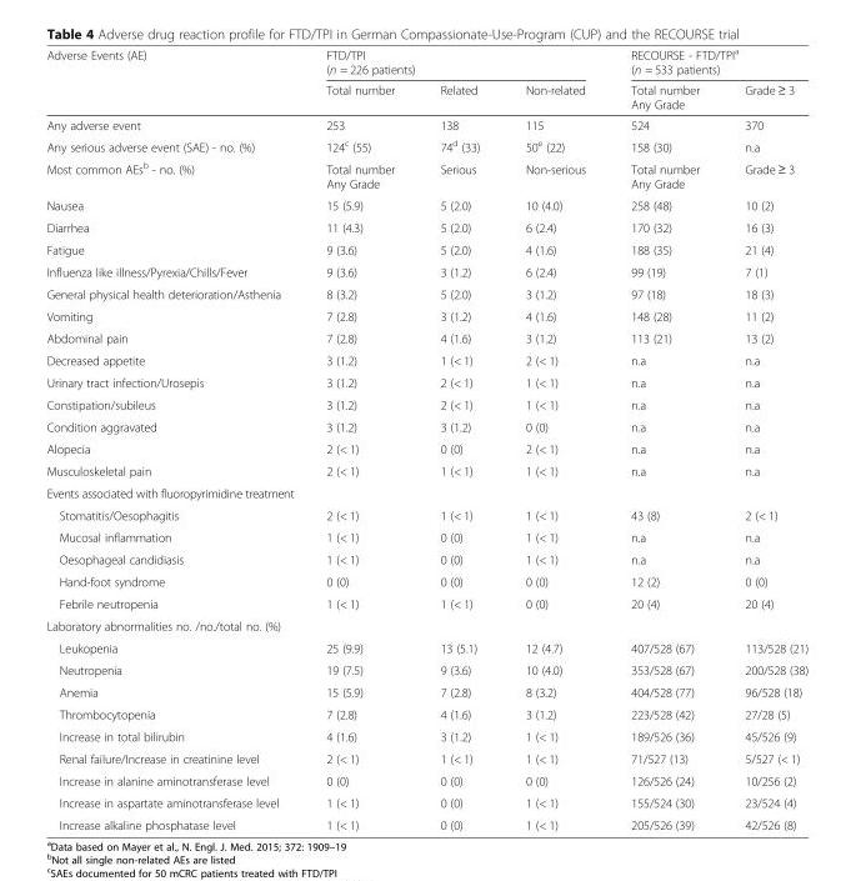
<table><thead><tr><td rowspan="2">Adverse Events (AE)</td><td colspan="3">FTD/TPI (n = 226 patients)</td><td colspan="2">RECOURSE - FTD/TPI<sup>a</sup> (n = 533 patients)</td></tr><tr><td>Total number</td><td>Related</td><td>Non-related</td><td>Total number Any Grade</td><td>Grade ≥ 3</td></tr></thead><tbody><tr><td>Any adverse event</td><td>253</td><td>138</td><td>115</td><td>524</td><td>370</td></tr><tr><td>Any serious adverse event (SAE) - no. (%)</td><td>124<sup>c</sup> (55)</td><td>74<sup>d</sup> (33)</td><td>50<sup>e</sup> (22)</td><td>158 (30)</td><td>n.a</td></tr><tr><td>Most common AEs<sup>b</sup> - no. (%)</td><td>Total number Any Grade</td><td>Serious</td><td>Non-serious</td><td>Total number Any Grade</td><td>Grade ≥ 3</td></tr><tr><td>Nausea</td><td>15 (5.9)</td><td>5 (2.0)</td><td>10 (4.0)</td><td>258 (48)</td><td>10 (2)</td></tr><tr><td>Diarrhea</td><td>11 (4.3)</td><td>5 (2.0)</td><td>6 (2.4)</td><td>170 (32)</td><td>16 (3)</td></tr><tr><td>Fatigue</td><td>9 (3.6)</td><td>5 (2.0)</td><td>4 (1.6)</td><td>188 (35)</td><td>21 (4)</td></tr><tr><td>Influenza like illness/Pyrexia/Chills/Fever</td><td>9 (3.6)</td><td>3 (1.2)</td><td>6 (2.4)</td><td>99 (19)</td><td>7 (1)</td></tr><tr><td>General physical health deterioration/Asthenia</td><td>8 (3.2)</td><td>5 (2.0)</td><td>3 (1.2)</td><td>97 (18)</td><td>18 (3)</td></tr><tr><td>Vomiting</td><td>7 (2.8)</td><td>3 (1.2)</td><td>4 (1.6)</td><td>148 (28)</td><td>11 (2)</td></tr><tr><td>Abdominal pain</td><td>7 (2.8)</td><td>4 (1.6)</td><td>3 (1.2)</td><td>113 (21)</td><td>13 (2)</td></tr><tr><td>Decreased appetite</td><td>3 (1.2)</td><td>1 (&lt; 1)</td><td>2 (&lt; 1)</td><td>n.a</td><td>n.a</td></tr><tr><td>Urinary tract infection/Urosepis</td><td>3 (1.2)</td><td>2 (&lt; 1)</td><td>1 (&lt; 1)</td><td>n.a</td><td>n.a</td></tr><tr><td>Constipation/subileus</td><td>3 (1.2)</td><td>2 (&lt; 1)</td><td>1 (&lt; 1)</td><td>n.a</td><td>n.a</td></tr><tr><td>Condition aggravated</td><td>3 (1.2)</td><td>3 (1.2)</td><td>0 (0)</td><td>n.a</td><td>n.a</td></tr><tr><td>Alopecia</td><td>2 (&lt; 1)</td><td>0 (0)</td><td>2 (&lt; 1)</td><td>n.a</td><td>n.a</td></tr><tr><td>Musculoskeletal pain</td><td>2 (&lt; 1)</td><td>1 (&lt; 1)</td><td>1 (&lt; 1)</td><td>n.a</td><td>n.a</td></tr><tr><td colspan="6">Events associated with fluoropyrimidine treatment</td></tr><tr><td>Stomatitis/Oesophagitis</td><td>2 (&lt; 1)</td><td>1 (&lt; 1)</td><td>1 (&lt; 1)</td><td>43 (8)</td><td>2 (&lt; 1)</td></tr><tr><td>Mucosal inflammation</td><td>1 (&lt; 1)</td><td>0 (0)</td><td>1 (&lt; 1)</td><td>n.a</td><td>n.a</td></tr><tr><td>Oesophageal candidiasis</td><td>1 (&lt; 1)</td><td>0 (0)</td><td>1 (&lt; 1)</td><td>n.a</td><td>n.a</td></tr><tr><td>Hand-foot syndrome</td><td>0 (0)</td><td>0 (0)</td><td>0 (0)</td><td>12 (2)</td><td>0 (0)</td></tr><tr><td>Febrile neutropenia</td><td>1 (&lt; 1)</td><td>1 (&lt; 1)</td><td>0 (0)</td><td>20 (4)</td><td>20 (4)</td></tr><tr><td colspan="6">Laboratory abnormalities no. /no./total no. (%)</td></tr><tr><td>Leukopenia</td><td>25 (9.9)</td><td>13 (5.1)</td><td>12 (4.7)</td><td>407/528 (67)</td><td>113/528 (21)</td></tr><tr><td>Neutropenia</td><td>19 (7.5)</td><td>9 (3.6)</td><td>10 (4.0)</td><td>353/528 (67)</td><td>200/528 (38)</td></tr><tr><td>Anemia</td><td>15 (5.9)</td><td>7 (2.8)</td><td>8 (3.2)</td><td>404/528 (77)</td><td>96/528 (18)</td></tr><tr><td>Thrombocytopenia</td><td>7 (2.8)</td><td>4 (1.6)</td><td>3 (1.2)</td><td>223/528 (42)</td><td>27/28 (5)</td></tr><tr><td>Increase in total bilirubin</td><td>4 (1.6)</td><td>3 (1.2)</td><td>1 (&lt; 1)</td><td>189/526 (36)</td><td>45/526 (9)</td></tr><tr><td>Renal failure/Increase in creatinine level</td><td>2 (&lt; 1)</td><td>1 (&lt; 1)</td><td>1 (&lt; 1)</td><td>71/527 (13)</td><td>5/527 (&lt; 1)</td></tr><tr><td>Increase in alanine aminotransferase level</td><td>0 (0)</td><td>0 (0)</td><td>0 (0)</td><td>126/526 (24)</td><td>10/256 (2)</td></tr><tr><td>Increase in aspartate aminotransferase level</td><td>1 (&lt; 1)</td><td>0 (0)</td><td>1 (&lt; 1)</td><td>155/524 (30)</td><td>23/524 (4)</td></tr><tr><td>Increase alkaline phosphatase level</td><td>1 (&lt; 1)</td><td>0 (0)</td><td>1 (&lt; 1)</td><td>205/526 (39)</td><td>42/526 (8)</td></tr></tbody></table>